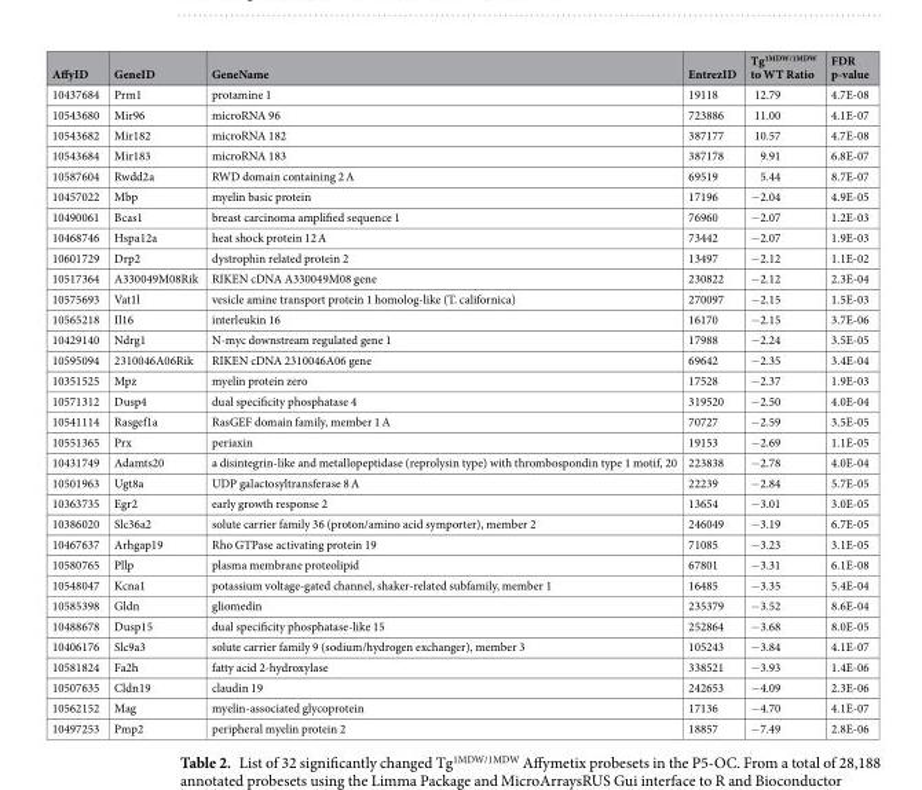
<table><thead><tr><td>AffyID</td><td>GeneID</td><td>GeneName</td><td>EntrezID</td><td>Tg<sup>1MDW/1MDW</sup> to WT Ratio</td><td>FDR p-value</td></tr></thead><tbody><tr><td>10437684</td><td>Prm1</td><td>protamine 1</td><td>19118</td><td>12.79</td><td>4.7E-08</td></tr><tr><td>10543680</td><td>Mir96</td><td>microRNA 96</td><td>723886</td><td>11.00</td><td>4.1E-07</td></tr><tr><td>10543682</td><td>Mir182</td><td>microRNA 182</td><td>387177</td><td>10.57</td><td>4.7E-08</td></tr><tr><td>10543684</td><td>Mir183</td><td>microRNA 183</td><td>387178</td><td>9.91</td><td>6.8E-07</td></tr><tr><td>10587604</td><td>Rwdd2a</td><td>RWD domain containing 2 A</td><td>69519</td><td>5.44</td><td>8.7E-07</td></tr><tr><td>10457022</td><td>Mbp</td><td>myelin basic protein</td><td>17196</td><td>−2.04</td><td>4.9E-05</td></tr><tr><td>10490061</td><td>Bcas1</td><td>breast carcinoma amplified sequence 1</td><td>76960</td><td>−2.07</td><td>1.2E-03</td></tr><tr><td>10468746</td><td>Hspa12a</td><td>heat shock protein 12 A</td><td>73442</td><td>−2.07</td><td>1.9E-03</td></tr><tr><td>10601729</td><td>Drp2</td><td>dystrophin related protein 2</td><td>13497</td><td>−2.12</td><td>1.1E-02</td></tr><tr><td>10517364</td><td>A330049M08Rik</td><td>RIKEN cDNA A330049M08 gene</td><td>230822</td><td>−2.12</td><td>2.3E-04</td></tr><tr><td>10575693</td><td>Vat1l</td><td>vesicle amine transport protein 1 homolog-like (T. californica)</td><td>270097</td><td>−2.15</td><td>1.5E-03</td></tr><tr><td>10565218</td><td>Il16</td><td>interleukin 16</td><td>16170</td><td>−2.15</td><td>3.7E-06</td></tr><tr><td>10429140</td><td>Ndrg1</td><td>N-myc downstream regulated gene 1</td><td>17988</td><td>−2.24</td><td>3.5E-05</td></tr><tr><td>10595094</td><td>2310046A06Rik</td><td>RIKEN cDNA 2310046A06 gene</td><td>69642</td><td>−2.35</td><td>3.4E-04</td></tr><tr><td>10351525</td><td>Mpz</td><td>myelin protein zero</td><td>17528</td><td>−2.37</td><td>1.9E-03</td></tr><tr><td>10571312</td><td>Dusp4</td><td>dual specificity phosphatase 4</td><td>319520</td><td>−2.50</td><td>4.0E-04</td></tr><tr><td>10541114</td><td>Rasgef1a</td><td>RasGEF domain family, member 1 A</td><td>70727</td><td>−2.59</td><td>3.5E-05</td></tr><tr><td>10551365</td><td>Prx</td><td>periaxin</td><td>19153</td><td>−2.69</td><td>1.1E-05</td></tr><tr><td>10431749</td><td>Adamts20</td><td>a disintegrin-like and metallopeptidase (reprolysin type) with thrombospondin type 1 motif, 20</td><td>223838</td><td>−2.78</td><td>4.0E-04</td></tr><tr><td>10501963</td><td>Ugt8a</td><td>UDP galactosyltransferase 8 A</td><td>22239</td><td>−2.84</td><td>5.7E-05</td></tr><tr><td>10363735</td><td>Egr2</td><td>early growth response 2</td><td>13654</td><td>−3.01</td><td>3.0E-05</td></tr><tr><td>10386020</td><td>Slc36a2</td><td>solute carrier family 36 (proton/amino acid symporter), member 2</td><td>246049</td><td>−3.19</td><td>6.7E-05</td></tr><tr><td>10467637</td><td>Arhgap19</td><td>Rho GTPase activating protein 19</td><td>71085</td><td>−3.23</td><td>3.1E-05</td></tr><tr><td>10580765</td><td>Pllp</td><td>plasma membrane proteolipid</td><td>67801</td><td>−3.31</td><td>6.1E-08</td></tr><tr><td>10548047</td><td>Kcna1</td><td>potassium voltage-gated channel, shaker-related subfamily, member 1</td><td>16485</td><td>−3.35</td><td>5.4E-04</td></tr><tr><td>10585398</td><td>Gldn</td><td>gliomedin</td><td>235379</td><td>−3.52</td><td>8.6E-04</td></tr><tr><td>10488678</td><td>Dusp15</td><td>dual specificity phosphatase-like 15</td><td>252864</td><td>−3.68</td><td>8.0E-05</td></tr><tr><td>10406176</td><td>Slc9a3</td><td>solute carrier family 9 (sodium/hydrogen exchanger), member 3</td><td>105243</td><td>−3.84</td><td>4.1E-07</td></tr><tr><td>10581824</td><td>Fa2h</td><td>fatty acid 2-hydroxylase</td><td>338521</td><td>−3.93</td><td>1.4E-06</td></tr><tr><td>10507635</td><td>Cldn19</td><td>claudin 19</td><td>242653</td><td>−4.09</td><td>2.3E-06</td></tr><tr><td>10562152</td><td>Mag</td><td>myelin-associated glycoprotein</td><td>17136</td><td>−4.70</td><td>4.1E-07</td></tr><tr><td>10497253</td><td>Pmp2</td><td>peripheral myelin protein 2</td><td>18857</td><td>−7.49</td><td>2.8E-06</td></tr></tbody></table>